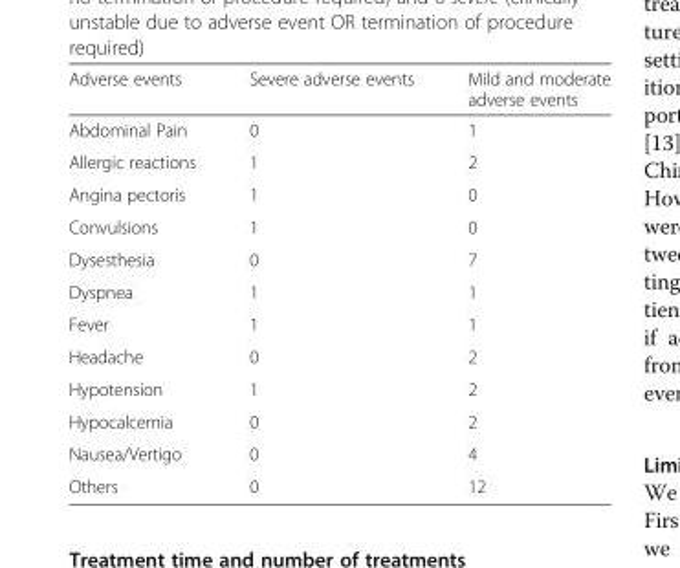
<table><thead><tr><td>Adverse events</td><td>Severe adverse events</td><td>Mild and moderate adverse events</td></tr></thead><tbody><tr><td>Abdominal Pain</td><td>0</td><td>1</td></tr><tr><td>Allergic reactions</td><td>1</td><td>2</td></tr><tr><td>Angina pectoris</td><td>1</td><td>0</td></tr><tr><td>Convulsions</td><td>1</td><td>0</td></tr><tr><td>Dysesthesia</td><td>0</td><td>7</td></tr><tr><td>Dyspnea</td><td>1</td><td>1</td></tr><tr><td>Fever</td><td>1</td><td>1</td></tr><tr><td>Headache</td><td>0</td><td>2</td></tr><tr><td>Hypotension</td><td>1</td><td>2</td></tr><tr><td>Hypocalcemia</td><td>0</td><td>2</td></tr><tr><td>Nausea/Vertigo</td><td>0</td><td>4</td></tr><tr><td>Others</td><td>0</td><td>12</td></tr></tbody></table>